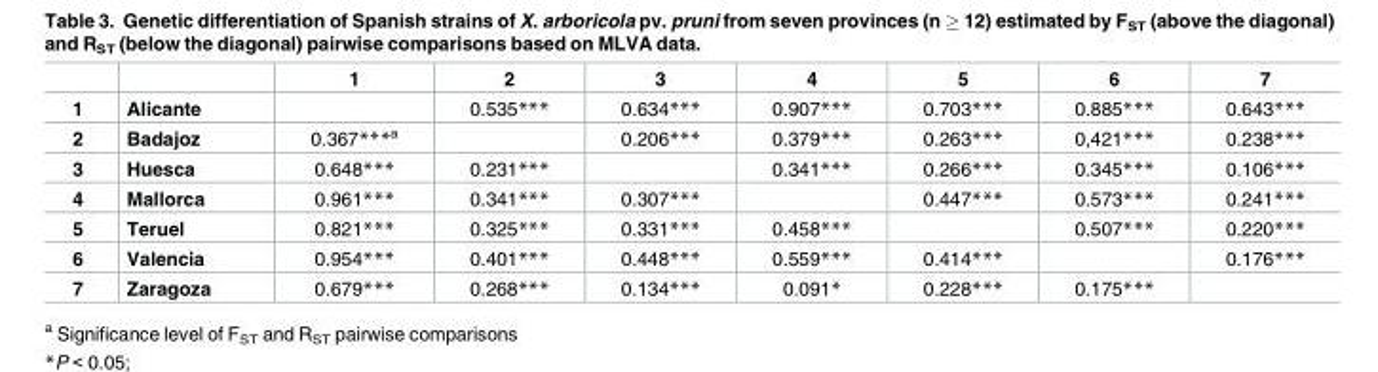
<table><thead><tr><td></td><td></td><td>1</td><td>2</td><td>3</td><td>4</td><td>5</td><td>6</td><td>7</td></tr></thead><tbody><tr><td>1</td><td>Alicante</td><td></td><td>0.535***</td><td>0.634***</td><td>0.907***</td><td>0.703***</td><td>0.885***</td><td>0.643***</td></tr><tr><td>2</td><td>Badajoz</td><td>0.367***<sup>a</sup></td><td></td><td>0.206***</td><td>0.379***</td><td>0.263***</td><td>0,421***</td><td>0.238***</td></tr><tr><td>3</td><td>Huesca</td><td>0.648***</td><td>0.231***</td><td></td><td>0.341***</td><td>0.266***</td><td>0.345***</td><td>0.106***</td></tr><tr><td>4</td><td>Mallorca</td><td>0.961***</td><td>0.341***</td><td>0.307***</td><td></td><td>0.447***</td><td>0.573***</td><td>0.241***</td></tr><tr><td>5</td><td>Teruel</td><td>0.821***</td><td>0.325***</td><td>0.331***</td><td>0.458***</td><td></td><td>0.507***</td><td>0.220***</td></tr><tr><td>6</td><td>Valencia</td><td>0.954***</td><td>0.401***</td><td>0.448***</td><td>0.559***</td><td>0.414***</td><td></td><td>0.176***</td></tr><tr><td>7</td><td>Zaragoza</td><td>0.679***</td><td>0.268***</td><td>0.134***</td><td>0.091*</td><td>0.228***</td><td>0.175***</td><td></td></tr></tbody></table>